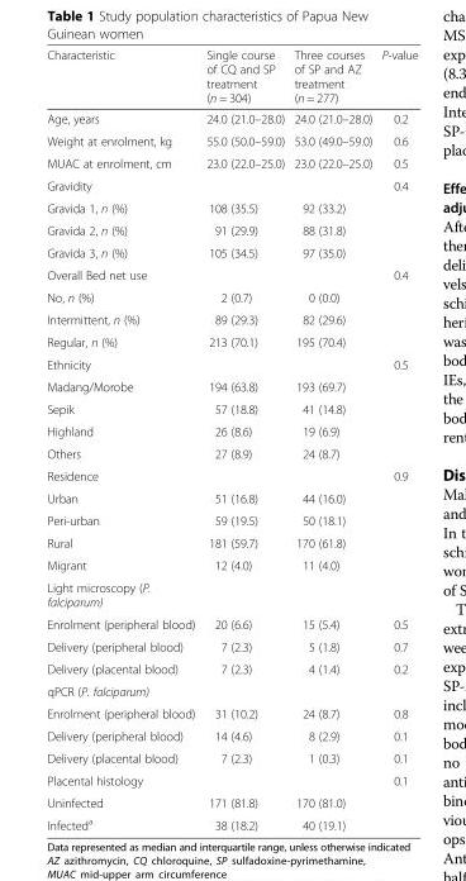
<table><thead><tr><td>Characteristic</td><td>Single course of CQ and SP treatment (n = 304)</td><td>Three courses of SP and AZ treatment (n = 277)</td><td>P-value</td></tr></thead><tbody><tr><td>Age, years</td><td>24.0 (21.0–28.0)</td><td>24.0 (21.0–28.0)</td><td>0.2</td></tr><tr><td>Weight at enrolment, kg</td><td>55.0 (50.0–59.0)</td><td>53.0 (49.0–59.0)</td><td>0.6</td></tr><tr><td>MUAC at enrolment, cm</td><td>23.0 (22.0–25.0)</td><td>23.0 (22.0–25.0)</td><td>0.5</td></tr><tr><td colspan="3">Gravidity</td><td rowspan="4">0.4</td></tr><tr><td>Gravida 1, n (%)</td><td>108 (35.5)</td><td>92 (33.2)</td></tr><tr><td>Gravida 2, n (%)</td><td>91 (29.9)</td><td>88 (31.8)</td></tr><tr><td>Gravida 3, n (%)</td><td>105 (34.5)</td><td>97 (35.0)</td></tr><tr><td colspan="3">Overall Bed net use</td><td rowspan="4">0.4</td></tr><tr><td>No, n (%)</td><td>2 (0.7)</td><td>0 (0.0)</td></tr><tr><td>Intermittent, n (%)</td><td>89 (29.3)</td><td>82 (29.6)</td></tr><tr><td>Regular, n (%)</td><td>213 (70.1)</td><td>195 (70.4)</td></tr><tr><td colspan="3">Ethnicity</td><td rowspan="5">0.5</td></tr><tr><td>Madang/Morobe</td><td>194 (63.8)</td><td>193 (69.7)</td></tr><tr><td>Sepik</td><td>57 (18.8)</td><td>41 (14.8)</td></tr><tr><td>Highland</td><td>26 (8.6)</td><td>19 (6.9)</td></tr><tr><td>Others</td><td>27 (8.9)</td><td>24 (8.7)</td></tr><tr><td colspan="3">Residence</td><td rowspan="5">0.9</td></tr><tr><td>Urban</td><td>51 (16.8)</td><td>44 (16.0)</td></tr><tr><td>Peri-urban</td><td>59 (19.5)</td><td>50 (18.1)</td></tr><tr><td>Rural</td><td>181 (59.7)</td><td>170 (61.8)</td></tr><tr><td>Migrant</td><td>12 (4.0)</td><td>11 (4.0)</td></tr><tr><td colspan="4">Light microscopy (P. falciparum)</td></tr><tr><td>Enrolment (peripheral blood)</td><td>20 (6.6)</td><td>15 (5.4)</td><td>0.5</td></tr><tr><td>Delivery (peripheral blood)</td><td>7 (2.3)</td><td>5 (1.8)</td><td>0.7</td></tr><tr><td>Delivery (placental blood)</td><td>7 (2.3)</td><td>4 (1.4)</td><td>0.2</td></tr><tr><td colspan="4">qPCR (P. falciparum)</td></tr><tr><td>Enrolment (peripheral blood)</td><td>31 (10.2)</td><td>24 (8.7)</td><td>0.8</td></tr><tr><td>Delivery (peripheral blood)</td><td>14 (4.6)</td><td>8 (2.9)</td><td>0.1</td></tr><tr><td>Delivery (placental blood)</td><td>7 (2.3)</td><td>1 (0.3)</td><td>0.1</td></tr><tr><td colspan="3">Placental histology</td><td rowspan="3">0.1</td></tr><tr><td>Uninfected</td><td>171 (81.8)</td><td>170 (81.0)</td></tr><tr><td>Infected<sup>a</sup></td><td>38 (18.2)</td><td>40 (19.1)</td></tr></tbody></table>